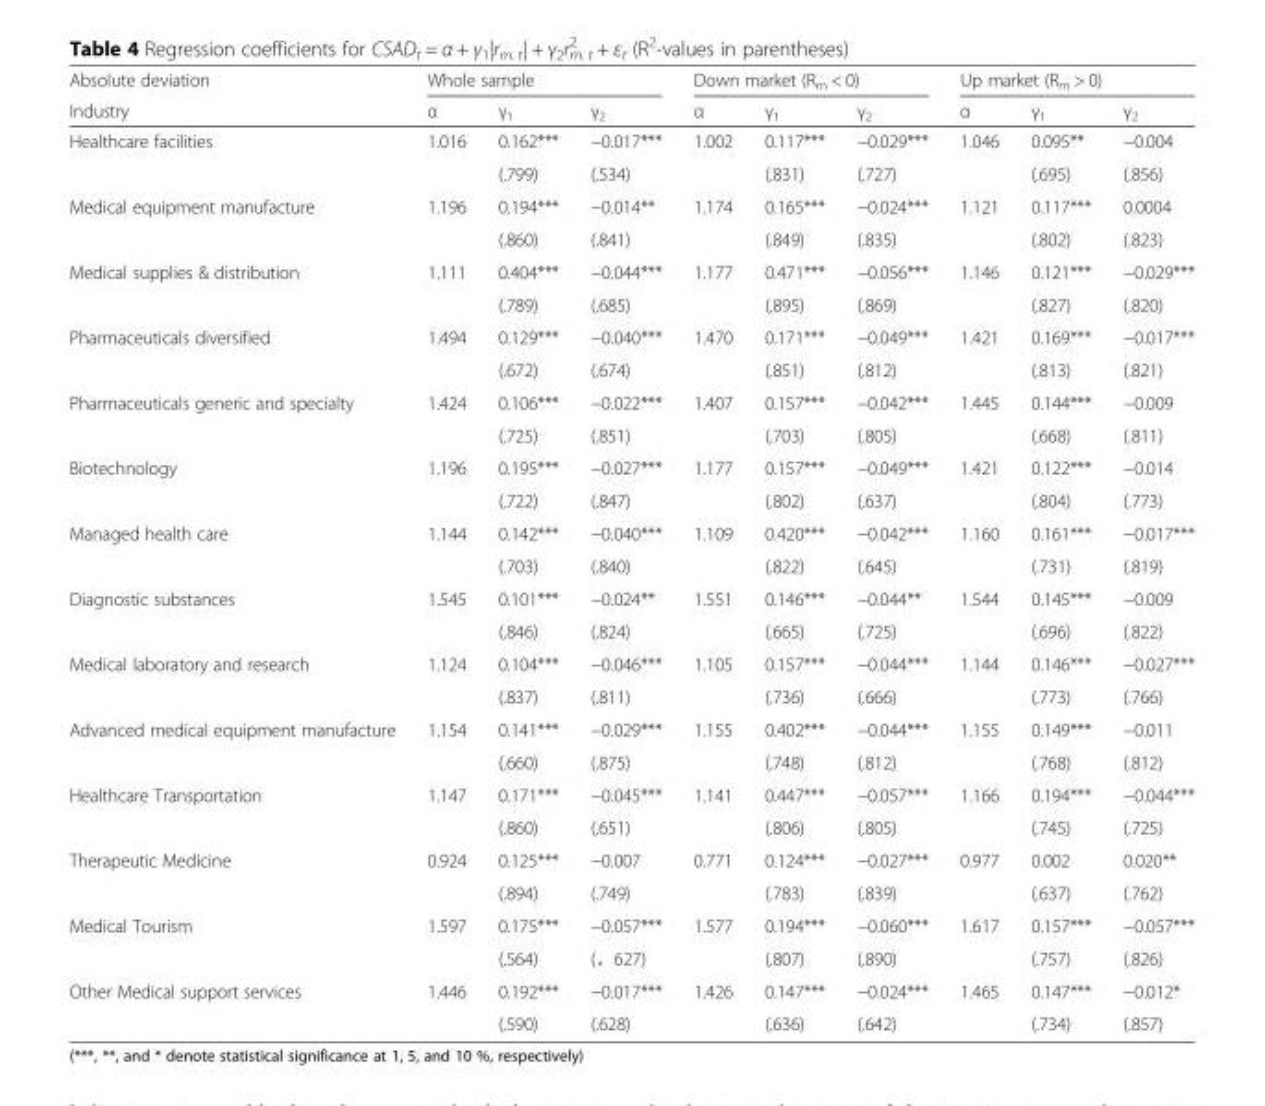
<table><thead><tr><td rowspan="2">Absolute deviation Industry</td><td colspan="3">Whole sample</td><td colspan="3">Down market (R<sub>m</sub> &lt; 0)</td><td colspan="3">Up market (R<sub>m</sub> &gt; 0)</td></tr><tr><td>α</td><td>γ<sub>1</sub></td><td>γ<sub>2</sub></td><td>α</td><td>γ<sub>1</sub></td><td>γ<sub>2</sub></td><td>α</td><td>γ<sub>1</sub></td><td>γ<sub>2</sub></td></tr></thead><tbody><tr><td rowspan="2">Healthcare facilities</td><td>1.016</td><td>0.162***</td><td>−0.017***</td><td>1.002</td><td>0.117***</td><td>−0.029***</td><td>1.046</td><td>0.095**</td><td>−0.004</td></tr><tr><td></td><td>(.799)</td><td>(.534)</td><td></td><td>(.831)</td><td>(.727)</td><td></td><td>(.695)</td><td>(.856)</td></tr><tr><td rowspan="2">Medical equipment manufacture</td><td>1.196</td><td>0.194***</td><td>−0.014**</td><td>1.174</td><td>0.165***</td><td>−0.024***</td><td>1.121</td><td>0.117***</td><td>0.0004</td></tr><tr><td></td><td>(.860)</td><td>(.841)</td><td></td><td>(.849)</td><td>(.835)</td><td></td><td>(.802)</td><td>(.823)</td></tr><tr><td rowspan="2">Medical supplies &amp; distribution</td><td>1.111</td><td>0.404***</td><td>−0.044***</td><td>1.177</td><td>0.471***</td><td>−0.056***</td><td>1.146</td><td>0.121***</td><td>−0.029***</td></tr><tr><td></td><td>(.789)</td><td>(.685)</td><td></td><td>(.895)</td><td>(.869)</td><td></td><td>(.827)</td><td>(.820)</td></tr><tr><td rowspan="2">Pharmaceuticals diversified</td><td>1.494</td><td>0.129***</td><td>−0.040***</td><td>1.470</td><td>0.171***</td><td>−0.049***</td><td>1.421</td><td>0.169***</td><td>−0.017***</td></tr><tr><td></td><td>(.672)</td><td>(.674)</td><td></td><td>(.851)</td><td>(.812)</td><td></td><td>(.813)</td><td>(.821)</td></tr><tr><td rowspan="2">Pharmaceuticals generic and specialty</td><td>1.424</td><td>0.106***</td><td>−0.022***</td><td>1.407</td><td>0.157***</td><td>−0.042***</td><td>1.445</td><td>0.144***</td><td>−0.009</td></tr><tr><td></td><td>(.725)</td><td>(.851)</td><td></td><td>(.703)</td><td>(.805)</td><td></td><td>(.668)</td><td>(.811)</td></tr><tr><td rowspan="2">Biotechnology</td><td>1.196</td><td>0.195***</td><td>−0.027***</td><td>1.177</td><td>0.157***</td><td>−0.049***</td><td>1.421</td><td>0.122***</td><td>−0.014</td></tr><tr><td></td><td>(.722)</td><td>(.847)</td><td></td><td>(.802)</td><td>(.637)</td><td></td><td>(.804)</td><td>(.773)</td></tr><tr><td rowspan="2">Managed health care</td><td>1.144</td><td>0.142***</td><td>−0.040***</td><td>1.109</td><td>0.420***</td><td>−0.042***</td><td>1.160</td><td>0.161***</td><td>−0.017***</td></tr><tr><td></td><td>(.703)</td><td>(.840)</td><td></td><td>(.822)</td><td>(.645)</td><td></td><td>(.731)</td><td>(.819)</td></tr><tr><td rowspan="2">Diagnostic substances</td><td>1.545</td><td>0.101***</td><td>−0.024**</td><td>1.551</td><td>0.146***</td><td>−0.044**</td><td>1.544</td><td>0.145***</td><td>−0.009</td></tr><tr><td></td><td>(.846)</td><td>(.824)</td><td></td><td>(.665)</td><td>(.725)</td><td></td><td>(.696)</td><td>(.822)</td></tr><tr><td rowspan="2">Medical laboratory and research</td><td>1.124</td><td>0.104***</td><td>−0.046***</td><td>1.105</td><td>0.157***</td><td>−0.044***</td><td>1.144</td><td>0.146***</td><td>−0.027***</td></tr><tr><td></td><td>(.837)</td><td>(.811)</td><td></td><td>(.736)</td><td>(.666)</td><td></td><td>(.773)</td><td>(.766)</td></tr><tr><td rowspan="2">Advanced medical equipment manufacture</td><td>1.154</td><td>0.141***</td><td>−0.029***</td><td>1.155</td><td>0.402***</td><td>−0.044***</td><td>1.155</td><td>0.149***</td><td>−0.011</td></tr><tr><td></td><td>(.660)</td><td>(.875)</td><td></td><td>(.748)</td><td>(.812)</td><td></td><td>(.768)</td><td>(.812)</td></tr><tr><td rowspan="2">Healthcare Transportation</td><td>1.147</td><td>0.171***</td><td>−0.045***</td><td>1.141</td><td>0.447***</td><td>−0.057***</td><td>1.166</td><td>0.194***</td><td>−0.044***</td></tr><tr><td></td><td>(.860)</td><td>(.651)</td><td></td><td>(.806)</td><td>(.805)</td><td></td><td>(.745)</td><td>(.725)</td></tr><tr><td rowspan="2">Therapeutic Medicine</td><td>0.924</td><td>0.125***</td><td>−0.007</td><td>0.771</td><td>0.124***</td><td>−0.027***</td><td>0.977</td><td>0.002</td><td>0.020**</td></tr><tr><td></td><td>(.894)</td><td>(.749)</td><td></td><td>(.783)</td><td>(.839)</td><td></td><td>(.637)</td><td>(.762)</td></tr><tr><td rowspan="2">Medical Tourism</td><td>1.597</td><td>0.175***</td><td>−0.057***</td><td>1.577</td><td>0.194***</td><td>−0.060***</td><td>1.617</td><td>0.157***</td><td>−0.057***</td></tr><tr><td></td><td>(.564)</td><td>(。627)</td><td></td><td>(.807)</td><td>(.890)</td><td></td><td>(.757)</td><td>(.826)</td></tr><tr><td rowspan="2">Other Medical support services</td><td>1.446</td><td>0.192***</td><td>−0.017***</td><td>1.426</td><td>0.147***</td><td>−0.024***</td><td>1.465</td><td>0.147***</td><td>−0.012*</td></tr><tr><td></td><td>(.590)</td><td>(.628)</td><td></td><td>(.636)</td><td>(.642)</td><td></td><td>(.734)</td><td>(.857)</td></tr></tbody></table>